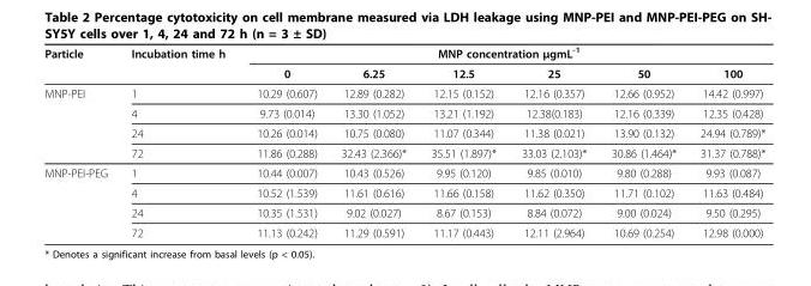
<table><thead><tr><td rowspan="2">Particle</td><td rowspan="2">Incubation time h</td><td rowspan="2">0</td><td rowspan="2">6.25</td><td colspan="2">MNP concentration µgmL<sup>-1</sup></td><td rowspan="2">50</td><td rowspan="2">100</td></tr><tr><td>12.5</td><td>25</td></tr></thead><tbody><tr><td rowspan="4">MNP-PEI</td><td>1</td><td>10.29 (0.607)</td><td>12.89 (0.282)</td><td>12.15 (0.152)</td><td>12.16 (0.357)</td><td>12.66 (0.952)</td><td>14.42 (0.997)</td></tr><tr><td>4</td><td>9.73 (0.014)</td><td>13.30 (1.052)</td><td>13.21 (1.192)</td><td>12.38(0.183)</td><td>12.16 (0.339)</td><td>12.35 (0.428)</td></tr><tr><td>24</td><td>10.26 (0.014)</td><td>10.75 (0.080)</td><td>11.07 (0.344)</td><td>11.38 (0.021)</td><td>13.90 (0.132)</td><td>24.94 (0.789)*</td></tr><tr><td>72</td><td>11.86 (0.288)</td><td>32.43 (2.366)*</td><td>35.51 (1.897)*</td><td>33.03 (2.103)*</td><td>30.86 (1.464)*</td><td>31.37 (0.788)*</td></tr><tr><td rowspan="4">MNP-PEI-PEG</td><td>1</td><td>10.44 (0.007)</td><td>10.43 (0.526)</td><td>9.95 (0.120)</td><td>9.85 (0.010)</td><td>9.80 (0.288)</td><td>9.93 (0.087)</td></tr><tr><td>4</td><td>10.52 (1.539)</td><td>11.61 (0.616)</td><td>11.66 (0.158)</td><td>11.62 (0.350)</td><td>11.71 (0.102)</td><td>11.63 (0.484)</td></tr><tr><td>24</td><td>10.35 (1.531)</td><td>9.02 (0.027)</td><td>8.67 (0.153)</td><td>8.84 (0.072)</td><td>9.00 (0.024)</td><td>9.50 (0.295)</td></tr><tr><td>72</td><td>11.13 (0.242)</td><td>11.29 (0.591)</td><td>11.17 (0.443)</td><td>12.11 (2.964)</td><td>10.69 (0.254)</td><td>12.98 (0.000)</td></tr></tbody></table>